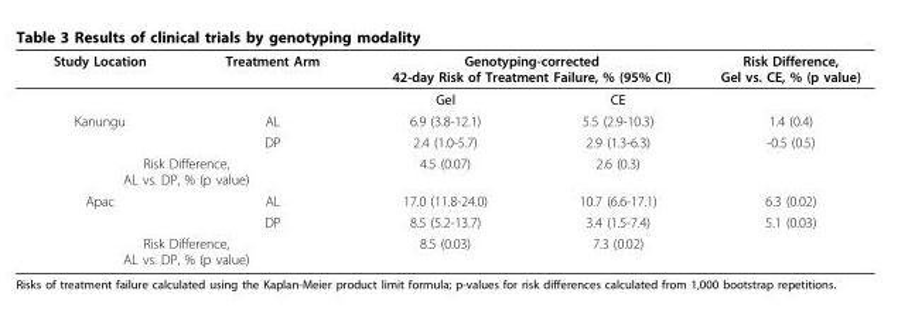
<table><thead><tr><td rowspan="2">Study Location</td><td rowspan="2">Treatment Arm</td><td colspan="2">Genotyping-corrected 42-day Risk of Treatment Failure, % (95% CI)</td><td rowspan="2">Risk Difference, Gel vs. CE, % (p value)</td></tr><tr><td>Gel</td><td>CE</td></tr></thead><tbody><tr><td rowspan="2">Kanungu</td><td>AL</td><td>6.9 (3.8-12.1)</td><td>5.5 (2.9-10.3)</td><td>1.4 (0.4)</td></tr><tr><td>DP</td><td>2.4 (1.0-5.7)</td><td>2.9 (1.3-6.3)</td><td>-0.5 (0.5)</td></tr><tr><td colspan="2">Risk Difference, AL vs. DP, % (p value)</td><td>4.5 (0.07)</td><td>2.6 (0.3)</td><td></td></tr><tr><td rowspan="2">Apac</td><td>AL</td><td>17.0 (11.8-24.0)</td><td>10.7 (6.6-17.1)</td><td>6.3 (0.02)</td></tr><tr><td>DP</td><td>8.5 (5.2-13.7)</td><td>3.4 (1.5-7.4)</td><td>5.1 (0.03)</td></tr><tr><td colspan="2">Risk Difference, AL vs. DP, % (p value)</td><td>8.5 (0.03)</td><td>7.3 (0.02)</td><td></td></tr></tbody></table>